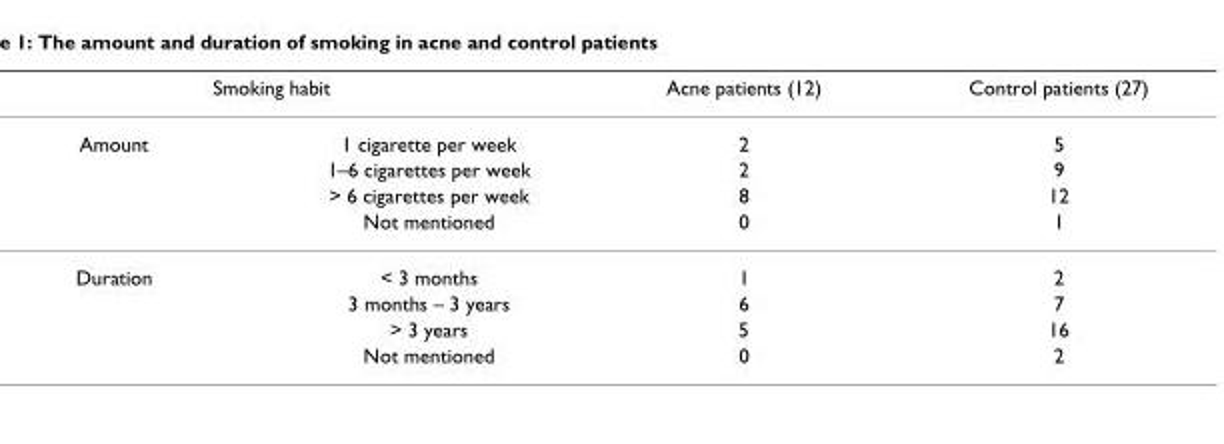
<table><thead><tr><td colspan="2">Smoking habit</td><td rowspan="2">Acne patients (12) 2</td><td rowspan="2">Control patients (27) 5</td></tr><tr><td>Amount</td><td>1 cigarette per week</td></tr></thead><tbody><tr><td></td><td>1–6 cigarettes per week</td><td>2</td><td>9</td></tr><tr><td></td><td>&gt; 6 cigarettes per week</td><td>8</td><td>12</td></tr><tr><td></td><td>Not mentioned</td><td>0</td><td>1</td></tr><tr><td rowspan="4">Duration</td><td>&lt; 3 months</td><td>1</td><td>2</td></tr><tr><td>3 months – 3 years</td><td>6</td><td>7</td></tr><tr><td>&gt; 3 years</td><td>5</td><td>16</td></tr><tr><td>Not mentioned</td><td>0</td><td>2</td></tr></tbody></table>